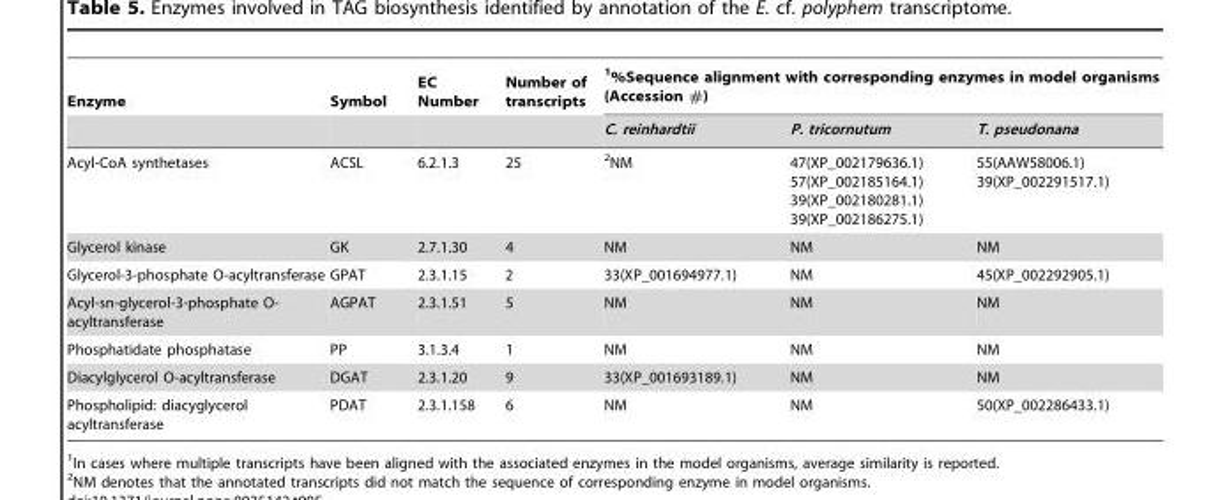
<table><thead><tr><td rowspan="2">Enzyme</td><td rowspan="2">Symbol</td><td rowspan="2">EC Number</td><td rowspan="2">Number of transcripts</td><td colspan="3">1%Sequence alignment with corresponding enzymes in model organisms (Accession #)</td></tr><tr><td>C. reinhardtii</td><td>P. tricornutum</td><td>T. pseudonana</td></tr></thead><tbody><tr><td>Acyl-CoA synthetases</td><td>ACSL</td><td>6.2.1.3</td><td>25</td><td>2NM</td><td>47(XP_002179636.1) 57(XP_002185164.1) 39(XP_002180281.1) 39(XP_002186275.1)</td><td>55(AAW58006.1) 39(XP_002291517.1)</td></tr><tr><td>Glycerol kinase</td><td>GK</td><td>2.7.1.30</td><td>4</td><td>NM</td><td>NM</td><td>NM</td></tr><tr><td>Glycerol-3-phosphate O-acyltransferase</td><td>GPAT</td><td>2.3.1.15</td><td>2</td><td>33(XP_001694977.1)</td><td>NM</td><td>45(XP_002292905.1)</td></tr><tr><td>Acyl-sn-glycerol-3-phosphate O- acyltransferase</td><td>AGPAT</td><td>2.3.1.51</td><td>5</td><td>NM</td><td>NM</td><td>NM</td></tr><tr><td>Phosphatidate phosphatase</td><td>PP</td><td>3.1.3.4</td><td>1</td><td>NM</td><td>NM</td><td>NM</td></tr><tr><td>Diacylglycerol O-acyltransferase</td><td>DGAT</td><td>2.3.1.20</td><td>9</td><td>33(XP_001693189.1)</td><td>NM</td><td>NM</td></tr><tr><td>Phospholipid: diacyglycerol acyltransferase</td><td>PDAT</td><td>2.3.1.158</td><td>6</td><td>NM</td><td>NM</td><td>50(XP_002286433.1)</td></tr></tbody></table>